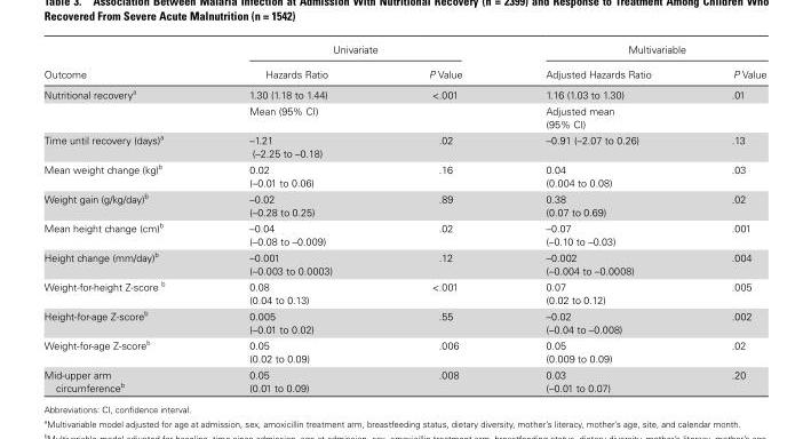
<table><thead><tr><td rowspan="2">Outcome</td><td colspan="2">Univariate</td><td colspan="2">Multivariable</td></tr><tr><td>Hazards Ratio</td><td>P Value</td><td>Adjusted Hazards Ratio</td><td>P Value</td></tr></thead><tbody><tr><td rowspan="2">Nutritional recovery<sup>a</sup></td><td>1.30 (1.18 to 1.44)</td><td>&lt;.001</td><td>1.16 (1.03 to 1.30)</td><td>.01</td></tr><tr><td>Mean (95% CI)</td><td></td><td>Adjusted mean (95% CI)</td><td></td></tr><tr><td>Time until recovery (days)<sup>a</sup></td><td>–1.21 (–2.25 to –0.18)</td><td>.02</td><td>–0.91 (–2.07 to 0.26)</td><td>.13</td></tr><tr><td>Mean weight change (kg)<sup>b</sup></td><td>0.02 (–0.01 to 0.06)</td><td>.16</td><td>0.04 (0.004 to 0.08)</td><td>.03</td></tr><tr><td>Weight gain (g/kg/day)<sup>b</sup></td><td>–0.02 (–0.28 to 0.25)</td><td>.89</td><td>0.38 (0.07 to 0.69)</td><td>.02</td></tr><tr><td>Mean height change (cm)<sup>b</sup></td><td>–0.04 (–0.08 to –0.009)</td><td>.02</td><td>–0.07 (–0.10 to –0.03)</td><td>.001</td></tr><tr><td>Height change (mm/day)<sup>b</sup></td><td>–0.001 (–0.003 to 0.0003)</td><td>.12</td><td>–0.002 (–0.004 to –0.0008)</td><td>.004</td></tr><tr><td>Weight-for-height Z-score <sup>b</sup></td><td>0.08 (0.04 to 0.13)</td><td>&lt;.001</td><td>0.07 (0.02 to 0.12)</td><td>.005</td></tr><tr><td>Height-for-age Z-score<sup>b</sup></td><td>0.005 (–0.01 to 0.02)</td><td>.55</td><td>–0.02 (–0.04 to –0.008)</td><td>.002</td></tr><tr><td>Weight-for-age Z-score<sup>b</sup></td><td>0.05 (0.02 to 0.09)</td><td>.006</td><td>0.05 (0.009 to 0.09)</td><td>.02</td></tr><tr><td>Mid-upper arm circumference<sup>b</sup></td><td>0.05 (0.01 to 0.09)</td><td>.008</td><td>0.03 (–0.01 to 0.07)</td><td>.20</td></tr></tbody></table>